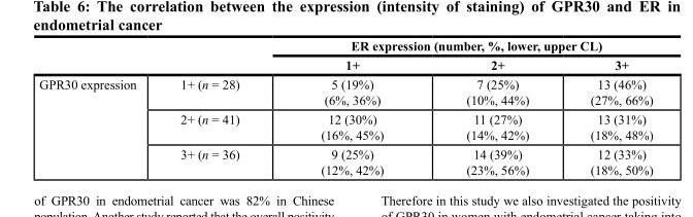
<table><thead><tr><td rowspan="2"></td><td rowspan="2"></td><td colspan="3">ER expression (number, %, lower, upper CL)</td></tr><tr><td>1+</td><td>2+</td><td>3+</td></tr></thead><tbody><tr><td rowspan="3">GPR30 expression</td><td>1+ (n = 28)</td><td>5 (19%) (6%, 36%)</td><td>7 (25%) (10%, 44%)</td><td>13 (46%) (27%, 66%)</td></tr><tr><td>2+ (n = 41)</td><td>12 (30%) (16%, 45%)</td><td>11 (27%) (14%, 42%)</td><td>13 (31%) (18%, 48%)</td></tr><tr><td>3+ (n = 36)</td><td>9 (25%) (12%, 42%)</td><td>14 (39%) (23%, 56%)</td><td>12 (33%) (18%, 50%)</td></tr></tbody></table>